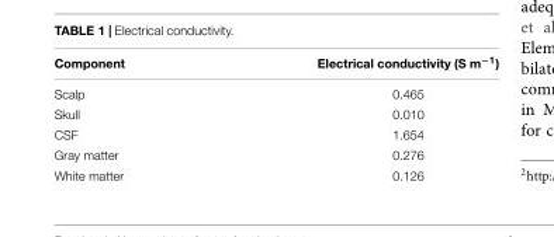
<table><thead><tr><td>Component</td><td>Electrical conductivity (S m<sup>−1</sup>)</td></tr></thead><tbody><tr><td>Scalp</td><td>0.465</td></tr><tr><td>Skull</td><td>0.010</td></tr><tr><td>CSF</td><td>1.654</td></tr><tr><td>Gray matter</td><td>0.276</td></tr><tr><td>White matter</td><td>0.126</td></tr></tbody></table>